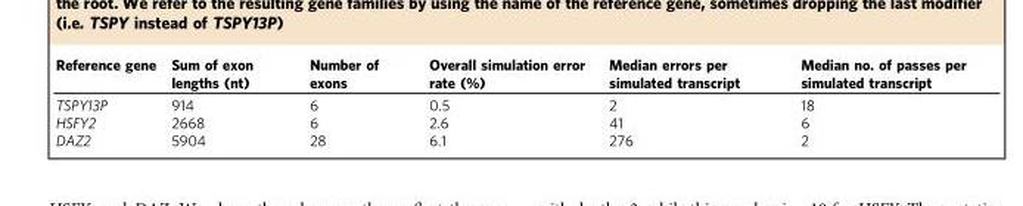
<table><thead><tr><td>Reference gene</td><td>Sum of exon lengths (nt)</td><td>Number of exons</td><td>Overall simulation error rate (%)</td><td>Median errors per simulated transcript</td><td>Median no. of passes per simulated transcript</td></tr></thead><tbody><tr><td>TSPY13P</td><td>914</td><td>6</td><td>0.5</td><td>2</td><td>18</td></tr><tr><td>HSFY2</td><td>2668</td><td>6</td><td>2.6</td><td>41</td><td>6</td></tr><tr><td>DAZ2</td><td>5904</td><td>28</td><td>6.1</td><td>276</td><td>2</td></tr></tbody></table>